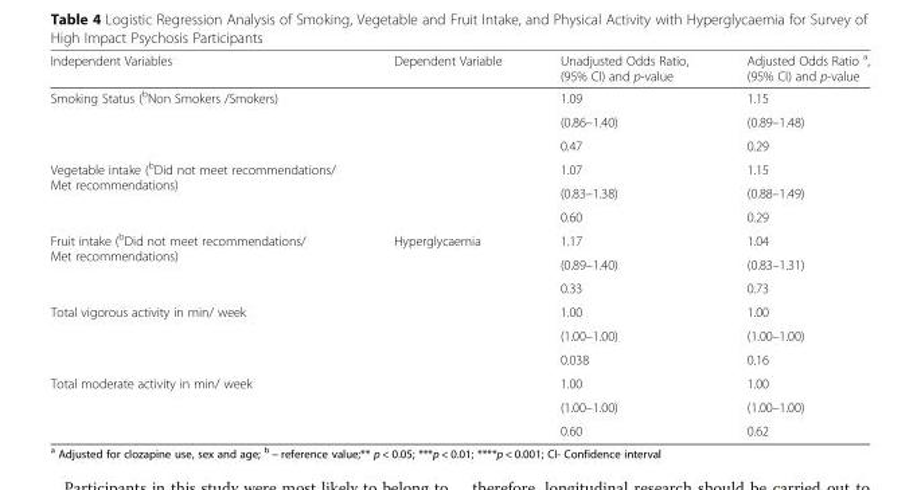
<table><thead><tr><td>Independent Variables</td><td>Dependent Variable</td><td>Unadjusted Odds Ratio, (95% CI) and p-value</td><td>Adjusted Odds Ratio <sup>a</sup>, (95% CI) and p-value</td></tr></thead><tbody><tr><td rowspan="3">Smoking Status (<sup>b</sup>Non Smokers /Smokers)</td><td rowspan="3"></td><td>1.09</td><td>1.15</td></tr><tr><td>(0.86–1.40)</td><td>(0.89–1.48)</td></tr><tr><td>0.47</td><td>0.29</td></tr><tr><td rowspan="3">Vegetable intake (<sup>b</sup>Did not meet recommendations/ Met recommendations)</td><td rowspan="3"></td><td>1.07</td><td>1.15</td></tr><tr><td>(0.83–1.38)</td><td>(0.88–1.49)</td></tr><tr><td>0.60</td><td>0.29</td></tr><tr><td rowspan="3">Fruit intake (<sup>b</sup>Did not meet recommendations/ Met recommendations)</td><td rowspan="3">Hyperglycaemia</td><td>1.17</td><td>1.04</td></tr><tr><td>(0.89–1.40)</td><td>(0.83–1.31)</td></tr><tr><td>0.33</td><td>0.73</td></tr><tr><td rowspan="3">Total vigorous activity in min/ week</td><td rowspan="3"></td><td>1.00</td><td>1.00</td></tr><tr><td>(1.00–1.00)</td><td>(1.00–1.00)</td></tr><tr><td>0.038</td><td>0.16</td></tr><tr><td rowspan="3">Total moderate activity in min/ week</td><td rowspan="3"></td><td>1.00</td><td>1.00</td></tr><tr><td>(1.00–1.00)</td><td>(1.00–1.00)</td></tr><tr><td>0.60</td><td>0.62</td></tr></tbody></table>